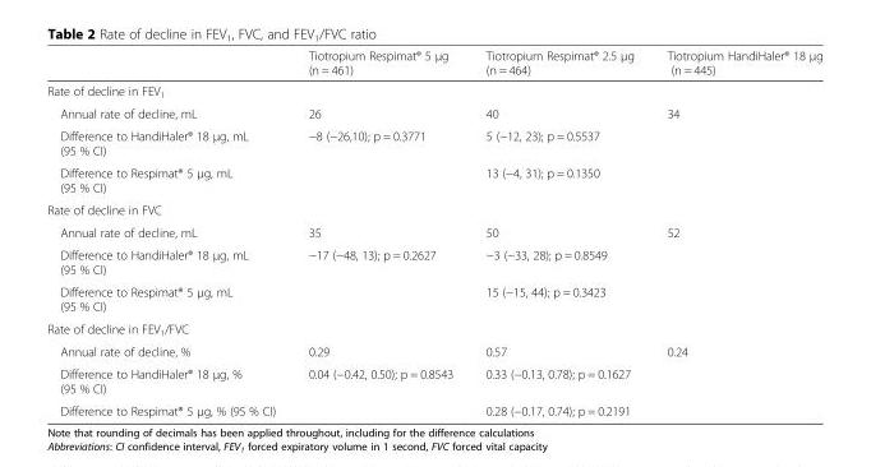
<table><thead><tr><td></td><td>Tiotropium Respimat® 5 μg (n = 461)</td><td>Tiotropium Respimat® 2.5 μg (n = 464)</td><td>Tiotropium HandiHaler® 18 μg (n = 445)</td></tr></thead><tbody><tr><td colspan="4">Rate of decline in FEV<sub>1</sub></td></tr><tr><td>Annual rate of decline, mL</td><td>26</td><td>40</td><td>34</td></tr><tr><td>Difference to HandiHaler® 18 μg, mL (95 % CI)</td><td>−8 (−26,10); p = 0.3771</td><td>5 (−12, 23); p = 0.5537</td><td></td></tr><tr><td>Difference to Respimat® 5 μg, mL (95 % CI)</td><td></td><td>13 (−4, 31); p = 0.1350</td><td></td></tr><tr><td colspan="4">Rate of decline in FVC</td></tr><tr><td>Annual rate of decline, mL</td><td>35</td><td>50</td><td>52</td></tr><tr><td>Difference to HandiHaler® 18 μg, mL (95 % CI)</td><td>−17 (−48, 13); p = 0.2627</td><td>−3 (−33, 28); p = 0.8549</td><td></td></tr><tr><td>Difference to Respimat® 5 μg, mL (95 % CI)</td><td></td><td>15 (−15, 44); p = 0.3423</td><td></td></tr><tr><td colspan="4">Rate of decline in FEV<sub>1</sub>/FVC</td></tr><tr><td>Annual rate of decline, %</td><td>0.29</td><td>0.57</td><td>0.24</td></tr><tr><td>Difference to HandiHaler® 18 μg, % (95 % CI)</td><td>0.04 (−0.42, 0.50); p = 0.8543</td><td>0.33 (−0.13, 0.78); p = 0.1627</td><td></td></tr><tr><td>Difference to Respimat® 5 μg, % (95 % CI)</td><td></td><td>0.28 (−0.17, 0.74); p = 0.2191</td><td></td></tr></tbody></table>